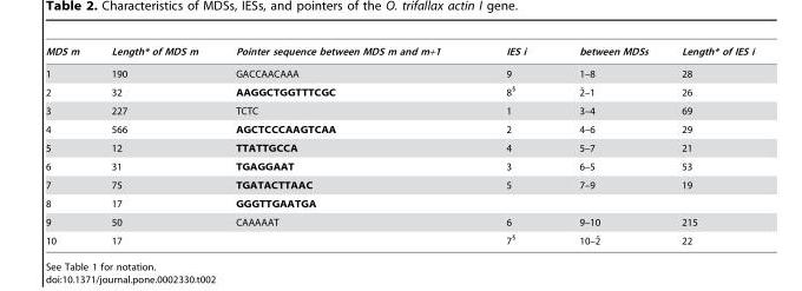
<table><thead><tr><td>MDS m</td><td>Length* of MDS m</td><td>Pointer sequence between MDS m and m+1</td><td>IES i</td><td>between MDSs</td><td>Length* of IES i</td></tr></thead><tbody><tr><td>1</td><td>190</td><td>GACCAACAAA</td><td>9</td><td>1–8</td><td>28</td></tr><tr><td>2</td><td>32</td><td>AAGGCTGGTTTCGC</td><td>8<sup>§</sup></td><td>2¯–1</td><td>26</td></tr><tr><td>3</td><td>227</td><td>TCTC</td><td>1</td><td>3–4</td><td>69</td></tr><tr><td>4</td><td>566</td><td>AGCTCCCAAGTCAA</td><td>2</td><td>4–6</td><td>29</td></tr><tr><td>5</td><td>12</td><td>TTATTGCCA</td><td>4</td><td>5–7</td><td>21</td></tr><tr><td>6</td><td>31</td><td>TGAGGAAT</td><td>3</td><td>6–5</td><td>53</td></tr><tr><td>7</td><td>75</td><td>TGATACTTAAC</td><td>5</td><td>7–9</td><td>19</td></tr><tr><td>8</td><td>17</td><td>GGGTTGAATGA</td><td></td><td></td><td></td></tr><tr><td>9</td><td>50</td><td>CAAAAAT</td><td>6</td><td>9–10</td><td>215</td></tr><tr><td>10</td><td>17</td><td></td><td>7<sup>§</sup></td><td>10–2¯</td><td>22</td></tr></tbody></table>